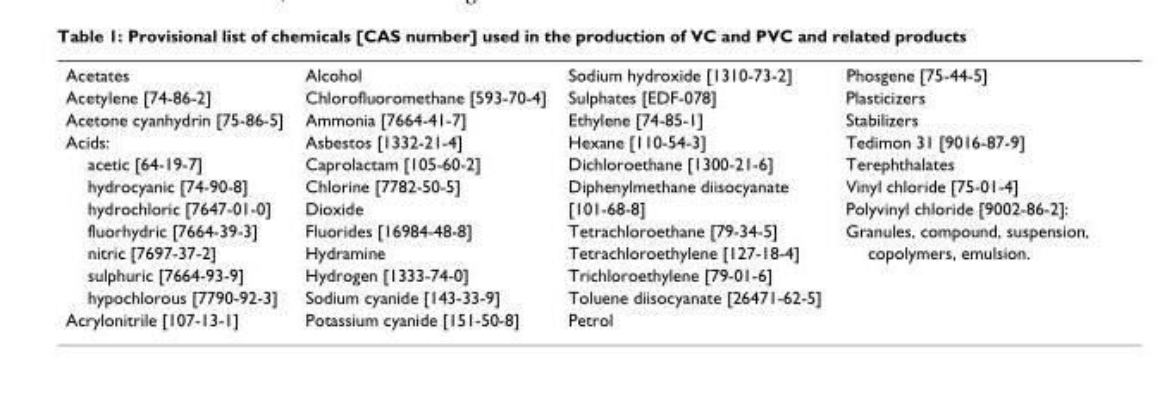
<table><tbody><tr><td>Acetates</td><td>Alcohol</td><td>Sodium hydroxide [1310-73-2]</td><td>Phosgene [75-44-5]</td></tr><tr><td>Acetylene [74-86-2]</td><td>Chlorofluoromethane [593-70-4]</td><td>Sulphates [EDF-078]</td><td>Plasticizers</td></tr><tr><td>Acetone cyanhydrin [75-86-5]</td><td>Ammonia [7664-41-7]</td><td>Ethylene [74-85-1]</td><td>Stabilizers</td></tr><tr><td>Acids:</td><td>Asbestos [1332-21-4]</td><td>Hexane [110-54-3]</td><td>Tedimon 31 [9016-87-9]</td></tr><tr><td>acetic [64-19-7]</td><td>Caprolactam [105-60-2]</td><td>Dichloroethane [1300-21-6]</td><td>Terephthalates</td></tr><tr><td>hydrocyanic [74-90-8]</td><td>Chlorine [7782-50-5]</td><td>Diphenylmethane diisocyanate</td><td>Vinyl chloride [75-01-4]</td></tr><tr><td>hydrochloric [7647-01-0]</td><td>Dioxide</td><td>[101-68-8]</td><td>Polyvinyl chloride [9002-86-2]:</td></tr><tr><td>fluorhydric [7664-39-3]</td><td>Fluorides [16984-48-8]</td><td>Tetrachloroethane [79-34-5]</td><td>Granules, compound, suspension,</td></tr><tr><td>nitric [7697-37-2]</td><td>Hydramine</td><td>Tetrachloroethylene [127-18-4]</td><td>copolymers, emulsion.</td></tr><tr><td>sulphuric [7664-93-9]</td><td>Hydrogen [1333-74-0]</td><td>Trichloroethylene [79-01-6]</td><td></td></tr><tr><td>hypochlorous [7790-92-3]</td><td>Sodium cyanide [143-33-9]</td><td>Toluene diisocyanate [26471-62-5]</td><td></td></tr><tr><td>Acrylonitrile [107-13-1]</td><td>Potassium cyanide [151-50-8]</td><td>Petrol</td><td></td></tr></tbody></table>